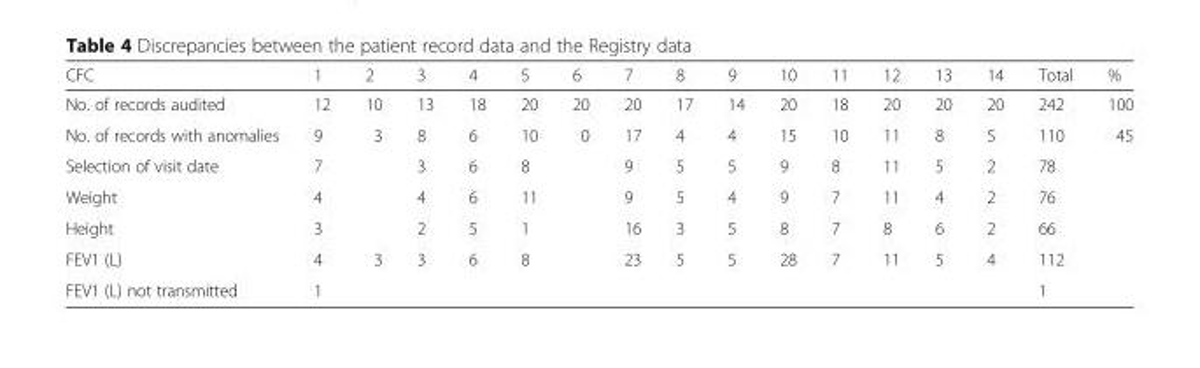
<table><thead><tr><td>CFC</td><td>1</td><td>2</td><td>3</td><td>4</td><td>5</td><td>6</td><td>7</td><td>8</td><td>9</td><td>10</td><td>11</td><td>12</td><td>13</td><td>14</td><td>Total</td><td>%</td></tr></thead><tbody><tr><td>No. of records audited</td><td>12</td><td>10</td><td>13</td><td>18</td><td>20</td><td>20</td><td>20</td><td>17</td><td>14</td><td>20</td><td>18</td><td>20</td><td>20</td><td>20</td><td>242</td><td>100</td></tr><tr><td>No. of records with anomalies</td><td>9</td><td>3</td><td>8</td><td>6</td><td>10</td><td>0</td><td>17</td><td>4</td><td>4</td><td>15</td><td>10</td><td>11</td><td>8</td><td>5</td><td>110</td><td>45</td></tr><tr><td>Selection of visit date</td><td>7</td><td></td><td>3</td><td>6</td><td>8</td><td></td><td>9</td><td>5</td><td>5</td><td>9</td><td>8</td><td>11</td><td>5</td><td>2</td><td>78</td><td></td></tr><tr><td>Weight</td><td>4</td><td></td><td>4</td><td>6</td><td>11</td><td></td><td>9</td><td>5</td><td>4</td><td>9</td><td>7</td><td>11</td><td>4</td><td>2</td><td>76</td><td></td></tr><tr><td>Height</td><td>3</td><td></td><td>2</td><td>5</td><td>1</td><td></td><td>16</td><td>3</td><td>5</td><td>8</td><td>7</td><td>8</td><td>6</td><td>2</td><td>66</td><td></td></tr><tr><td>FEV1 (L)</td><td>4</td><td>3</td><td>3</td><td>6</td><td>8</td><td></td><td>23</td><td>5</td><td>5</td><td>28</td><td>7</td><td>11</td><td>5</td><td>4</td><td>112</td><td></td></tr><tr><td>FEV1 (L) not transmitted</td><td>1</td><td></td><td></td><td></td><td></td><td></td><td></td><td></td><td></td><td></td><td></td><td></td><td></td><td></td><td>1</td><td></td></tr></tbody></table>